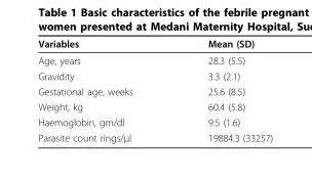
<table><thead><tr><td>Variables</td><td>Mean (SD)</td></tr></thead><tbody><tr><td>Age, years</td><td>28.3 (5.5)</td></tr><tr><td>Gravidity</td><td>3.3 (2.1)</td></tr><tr><td>Gestational age, weeks</td><td>25.6 (8.5)</td></tr><tr><td>Weight, kg</td><td>60.4 (5.8)</td></tr><tr><td>Haemoglobin, gm/dl</td><td>9.5 (1.6)</td></tr><tr><td>Parasite count rings/μl</td><td>19884.3 (33257)</td></tr></tbody></table>